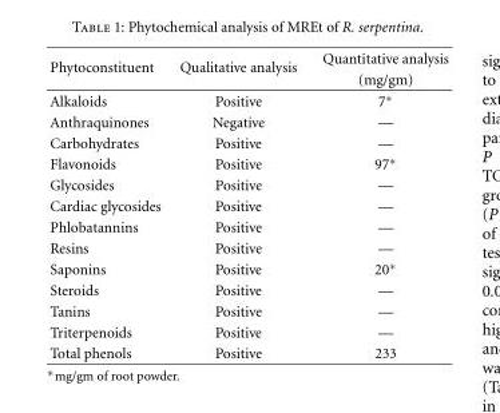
<table><thead><tr><td rowspan="2">Phytoconstituent</td><td rowspan="2">Qualitative analysis</td><td rowspan="2">Quantitative analysis (mg/gm)</td></tr><tr></tr></thead><tbody><tr><td>Alkaloids</td><td>Positive</td><td>7∗</td></tr><tr><td>Anthraquinones</td><td>Negative</td><td>—</td></tr><tr><td>Carbohydrates</td><td>Positive</td><td>—</td></tr><tr><td>Flavonoids</td><td>Positive</td><td>97∗</td></tr><tr><td>Glycosides</td><td>Positive</td><td>—</td></tr><tr><td>Cardiac glycosides</td><td>Positive</td><td>—</td></tr><tr><td>Phlobatannins</td><td>Positive</td><td>—</td></tr><tr><td>Resins</td><td>Positive</td><td>—</td></tr><tr><td>Saponins</td><td>Positive</td><td>20∗</td></tr><tr><td>Steroids</td><td>Positive</td><td>—</td></tr><tr><td>Tanins</td><td>Positive</td><td>—</td></tr><tr><td>Triterpenoids</td><td>Positive</td><td>—</td></tr><tr><td>Total phenols</td><td>Positive</td><td>233</td></tr></tbody></table>